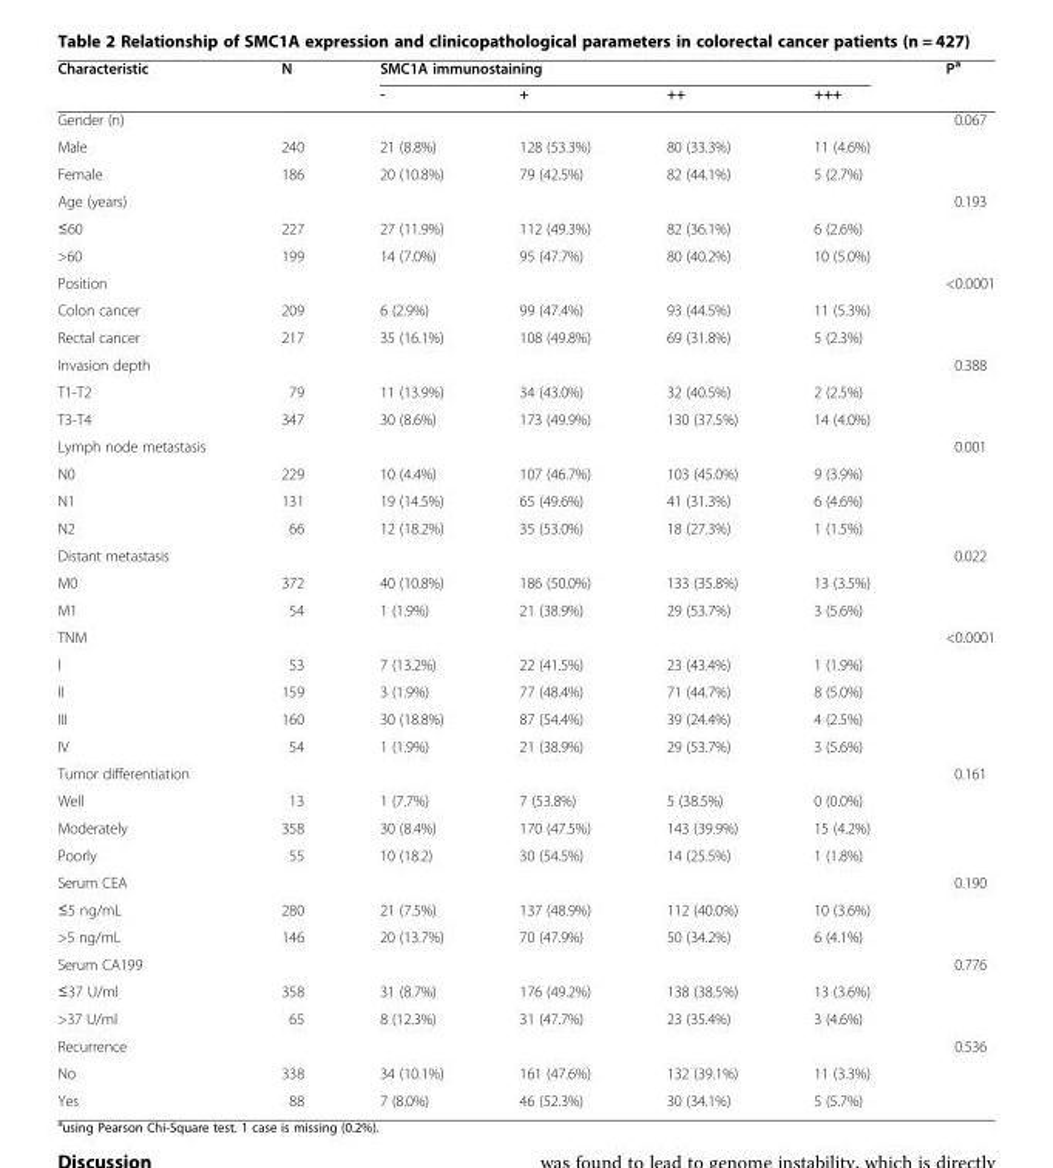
<table><thead><tr><td rowspan="2">Characteristic</td><td rowspan="2">N</td><td colspan="4">SMC1A immunostaining</td><td rowspan="2">P<sup>a</sup></td></tr><tr><td>-</td><td>+</td><td>++</td><td>+++</td></tr></thead><tbody><tr><td>Gender (n)</td><td></td><td></td><td></td><td></td><td></td><td>0.067</td></tr><tr><td>Male</td><td>240</td><td>21 (8.8%)</td><td>128 (53.3%)</td><td>80 (33.3%)</td><td>11 (4.6%)</td><td></td></tr><tr><td>Female</td><td>186</td><td>20 (10.8%)</td><td>79 (42.5%)</td><td>82 (44.1%)</td><td>5 (2.7%)</td><td></td></tr><tr><td>Age (years)</td><td></td><td></td><td></td><td></td><td></td><td>0.193</td></tr><tr><td>≤60</td><td>227</td><td>27 (11.9%)</td><td>112 (49.3%)</td><td>82 (36.1%)</td><td>6 (2.6%)</td><td></td></tr><tr><td>&gt;60</td><td>199</td><td>14 (7.0%)</td><td>95 (47.7%)</td><td>80 (40.2%)</td><td>10 (5.0%)</td><td></td></tr><tr><td>Position</td><td></td><td></td><td></td><td></td><td></td><td>&lt;0.0001</td></tr><tr><td>Colon cancer</td><td>209</td><td>6 (2.9%)</td><td>99 (47.4%)</td><td>93 (44.5%)</td><td>11 (5.3%)</td><td></td></tr><tr><td>Rectal cancer</td><td>217</td><td>35 (16.1%)</td><td>108 (49.8%)</td><td>69 (31.8%)</td><td>5 (2.3%)</td><td></td></tr><tr><td>Invasion depth</td><td></td><td></td><td></td><td></td><td></td><td>0.388</td></tr><tr><td>T1-T2</td><td>79</td><td>11 (13.9%)</td><td>34 (43.0%)</td><td>32 (40.5%)</td><td>2 (2.5%)</td><td></td></tr><tr><td>T3-T4</td><td>347</td><td>30 (8.6%)</td><td>173 (49.9%)</td><td>130 (37.5%)</td><td>14 (4.0%)</td><td></td></tr><tr><td>Lymph node metastasis</td><td></td><td></td><td></td><td></td><td></td><td>0.001</td></tr><tr><td>N0</td><td>229</td><td>10 (4.4%)</td><td>107 (46.7%)</td><td>103 (45.0%)</td><td>9 (3.9%)</td><td></td></tr><tr><td>N1</td><td>131</td><td>19 (14.5%)</td><td>65 (49.6%)</td><td>41 (31.3%)</td><td>6 (4.6%)</td><td></td></tr><tr><td>N2</td><td>66</td><td>12 (18.2%)</td><td>35 (53.0%)</td><td>18 (27.3%)</td><td>1 (1.5%)</td><td></td></tr><tr><td>Distant metastasis</td><td></td><td></td><td></td><td></td><td></td><td>0.022</td></tr><tr><td>M0</td><td>372</td><td>40 (10.8%)</td><td>186 (50.0%)</td><td>133 (35.8%)</td><td>13 (3.5%)</td><td></td></tr><tr><td>M1</td><td>54</td><td>1 (1.9%)</td><td>21 (38.9%)</td><td>29 (53.7%)</td><td>3 (5.6%)</td><td></td></tr><tr><td>TNM</td><td></td><td></td><td></td><td></td><td></td><td>&lt;0.0001</td></tr><tr><td>I</td><td>53</td><td>7 (13.2%)</td><td>22 (41.5%)</td><td>23 (43.4%)</td><td>1 (1.9%)</td><td></td></tr><tr><td>II</td><td>159</td><td>3 (1.9%)</td><td>77 (48.4%)</td><td>71 (44.7%)</td><td>8 (5.0%)</td><td></td></tr><tr><td>III</td><td>160</td><td>30 (18.8%)</td><td>87 (54.4%)</td><td>39 (24.4%)</td><td>4 (2.5%)</td><td></td></tr><tr><td>IV</td><td>54</td><td>1 (1.9%)</td><td>21 (38.9%)</td><td>29 (53.7%)</td><td>3 (5.6%)</td><td></td></tr><tr><td>Tumor differentiation</td><td></td><td></td><td></td><td></td><td></td><td>0.161</td></tr><tr><td>Well</td><td>13</td><td>1 (7.7%)</td><td>7 (53.8%)</td><td>5 (38.5%)</td><td>0 (0.0%)</td><td></td></tr><tr><td>Moderately</td><td>358</td><td>30 (8.4%)</td><td>170 (47.5%)</td><td>143 (39.9%)</td><td>15 (4.2%)</td><td></td></tr><tr><td>Poorly</td><td>55</td><td>10 (18.2)</td><td>30 (54.5%)</td><td>14 (25.5%)</td><td>1 (1.8%)</td><td></td></tr><tr><td>Serum CEA</td><td></td><td></td><td></td><td></td><td></td><td>0.190</td></tr><tr><td>≤5 ng/mL</td><td>280</td><td>21 (7.5%)</td><td>137 (48.9%)</td><td>112 (40.0%)</td><td>10 (3.6%)</td><td></td></tr><tr><td>&gt;5 ng/mL</td><td>146</td><td>20 (13.7%)</td><td>70 (47.9%)</td><td>50 (34.2%)</td><td>6 (4.1%)</td><td></td></tr><tr><td>Serum CA199</td><td></td><td></td><td></td><td></td><td></td><td>0.776</td></tr><tr><td>≤37 U/ml</td><td>358</td><td>31 (8.7%)</td><td>176 (49.2%)</td><td>138 (38.5%)</td><td>13 (3.6%)</td><td></td></tr><tr><td>&gt;37 U/ml</td><td>65</td><td>8 (12.3%)</td><td>31 (47.7%)</td><td>23 (35.4%)</td><td>3 (4.6%)</td><td></td></tr><tr><td>Recurrence</td><td></td><td></td><td></td><td></td><td></td><td>0.536</td></tr><tr><td>No</td><td>338</td><td>34 (10.1%)</td><td>161 (47.6%)</td><td>132 (39.1%)</td><td>11 (3.3%)</td><td></td></tr><tr><td>Yes</td><td>88</td><td>7 (8.0%)</td><td>46 (52.3%)</td><td>30 (34.1%)</td><td>5 (5.7%)</td><td></td></tr></tbody></table>